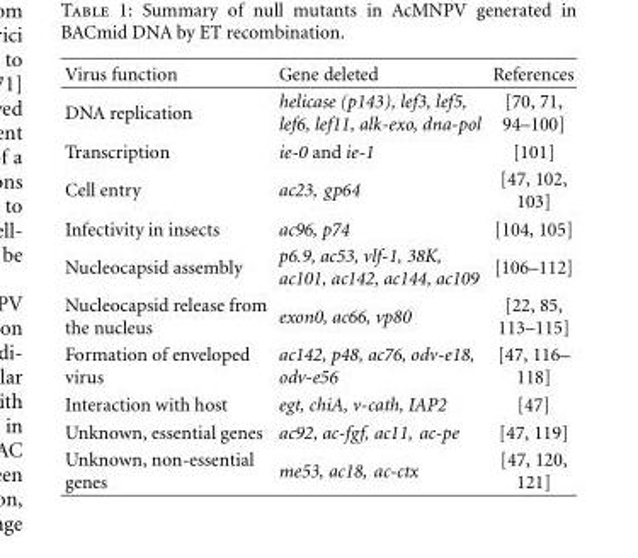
<table><thead><tr><td>Virus function</td><td>Gene deleted</td><td>References</td></tr></thead><tbody><tr><td>DNA replication</td><td>helicase (p143), lef3, lef5, lef6, lef11, alk-exo, dna-pol</td><td>[70, 71, 94–100]</td></tr><tr><td>Transcription</td><td>ie-0 and ie-1</td><td>[101]</td></tr><tr><td>Cell entry</td><td>ac23, gp64</td><td>[47, 102, 103]</td></tr><tr><td>Infectivity in insects</td><td>ac96, p74</td><td>[104, 105]</td></tr><tr><td>Nucleocapsid assembly</td><td>p6.9, ac53, vlf-1, 38K, ac101, ac142, ac144, ac109</td><td>[106–112]</td></tr><tr><td>Nucleocapsid release from the nucleus</td><td>exon0, ac66, vp80</td><td>[22, 85, 113–115]</td></tr><tr><td>Formation of enveloped virus</td><td>ac142, p48, ac76, odv-e18, odv-e56</td><td>[47, 116– 118]</td></tr><tr><td>Interaction with host</td><td>egt, chiA, v-cath, IAP2</td><td>[47]</td></tr><tr><td>Unknown, essential genes</td><td>ac92, ac-fgf, ac11, ac-pe</td><td>[47, 119]</td></tr><tr><td>Unknown, non-essential genes</td><td>me53, ac18, ac-ctx</td><td>[47, 120, 121]</td></tr></tbody></table>